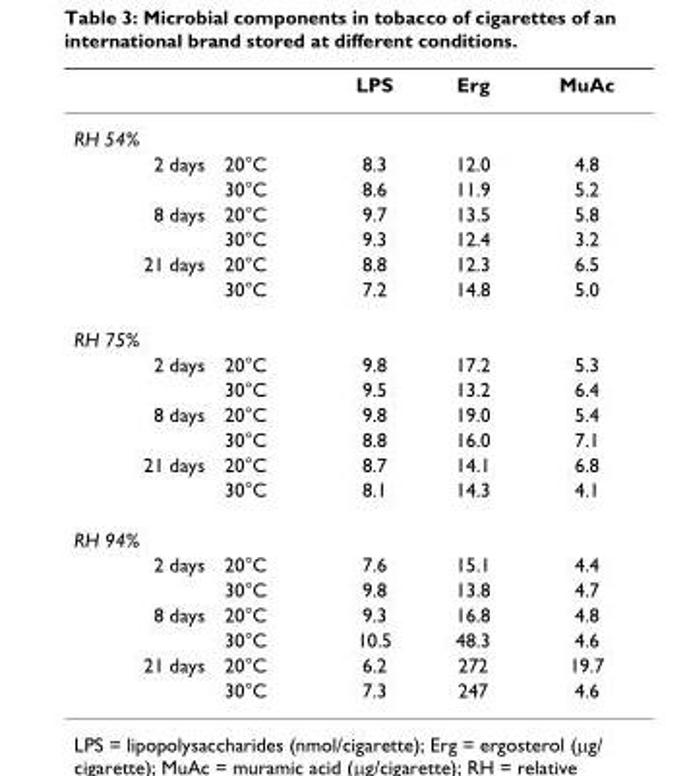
<table><thead><tr><td></td><td></td><td>LPS</td><td>Erg</td><td>MuAc</td></tr></thead><tbody><tr><td colspan="5">RH 54%</td></tr><tr><td rowspan="2">2 days</td><td>20°C</td><td>8.3</td><td>12.0</td><td>4.8</td></tr><tr><td>30°C</td><td>8.6</td><td>11.9</td><td>5.2</td></tr><tr><td rowspan="2">8 days</td><td>20°C</td><td>9.7</td><td>13.5</td><td>5.8</td></tr><tr><td>30°C</td><td>9.3</td><td>12.4</td><td>3.2</td></tr><tr><td rowspan="2">21 days</td><td>20°C</td><td>8.8</td><td>12.3</td><td>6.5</td></tr><tr><td>30°C</td><td>7.2</td><td>14.8</td><td>5.0</td></tr><tr><td colspan="5">RH 75%</td></tr><tr><td rowspan="2">2 days</td><td>20°C</td><td>9.8</td><td>17.2</td><td>5.3</td></tr><tr><td>30°C</td><td>9.5</td><td>13.2</td><td>6.4</td></tr><tr><td rowspan="2">8 days</td><td>20°C</td><td>9.8</td><td>19.0</td><td>5.4</td></tr><tr><td>30°C</td><td>8.8</td><td>16.0</td><td>7.1</td></tr><tr><td rowspan="2">21 days</td><td>20°C</td><td>8.7</td><td>14.1</td><td>6.8</td></tr><tr><td>30°C</td><td>8.1</td><td>14.3</td><td>4.1</td></tr><tr><td colspan="5">RH 94%</td></tr><tr><td rowspan="2">2 days</td><td>20°C</td><td>7.6</td><td>15.1</td><td>4.4</td></tr><tr><td>30°C</td><td>9.8</td><td>13.8</td><td>4.7</td></tr><tr><td rowspan="2">8 days</td><td>20°C</td><td>9.3</td><td>16.8</td><td>4.8</td></tr><tr><td>30°C</td><td>10.5</td><td>48.3</td><td>4.6</td></tr><tr><td rowspan="2">21 days</td><td>20°C</td><td>6.2</td><td>272</td><td>19.7</td></tr><tr><td>30°C</td><td>7.3</td><td>247</td><td>4.6</td></tr></tbody></table>